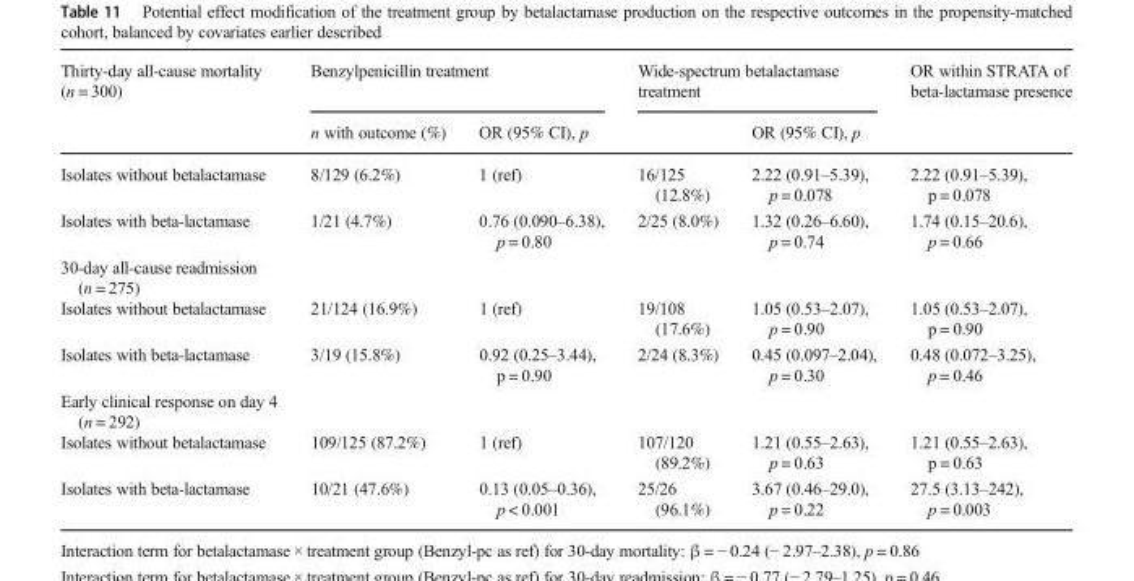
<table><thead><tr><td rowspan="2">Thirty-day all-cause mortality (n = 300)</td><td colspan="2">Benzylpenicillin treatment</td><td colspan="2">Wide-spectrum betalactamase treatment</td><td rowspan="2">OR within STRATA of beta-lactamase presence</td></tr><tr><td>n with outcome (%)</td><td>OR (95% CI), p</td><td></td><td>OR (95% CI), p</td></tr></thead><tbody><tr><td>Isolates without betalactamase</td><td>8/129 (6.2%)</td><td>1 (ref)</td><td>16/125 (12.8%)</td><td>2.22 (0.91–5.39), p = 0.078</td><td>2.22 (0.91–5.39), p = 0.078</td></tr><tr><td>Isolates with beta-lactamase</td><td>1/21 (4.7%)</td><td>0.76 (0.090–6.38), p = 0.80</td><td>2/25 (8.0%)</td><td>1.32 (0.26–6.60), p = 0.74</td><td>1.74 (0.15–20.6), p = 0.66</td></tr><tr><td colspan="6">30-day all-cause readmission (n = 275)</td></tr><tr><td>Isolates without betalactamase</td><td>21/124 (16.9%)</td><td>1 (ref)</td><td>19/108 (17.6%)</td><td>1.05 (0.53–2.07), p = 0.90</td><td>1.05 (0.53–2.07), p = 0.90</td></tr><tr><td>Isolates with beta-lactamase</td><td>3/19 (15.8%)</td><td>0.92 (0.25–3.44), p = 0.90</td><td>2/24 (8.3%)</td><td>0.45 (0.097–2.04), p = 0.30</td><td>0.48 (0.072–3.25), p = 0.46</td></tr><tr><td colspan="6">Early clinical response on day 4 (n = 292)</td></tr><tr><td>Isolates without betalactamase</td><td>109/125 (87.2%)</td><td>1 (ref)</td><td>107/120 (89.2%)</td><td>1.21 (0.55–2.63), p = 0.63</td><td>1.21 (0.55–2.63), p = 0.63</td></tr><tr><td>Isolates with beta-lactamase</td><td>10/21 (47.6%)</td><td>0.13 (0.05–0.36), p &lt; 0.001</td><td>25/26 (96.1%)</td><td>3.67 (0.46–29.0), p = 0.22</td><td>27.5 (3.13–242), p = 0.003</td></tr></tbody></table>